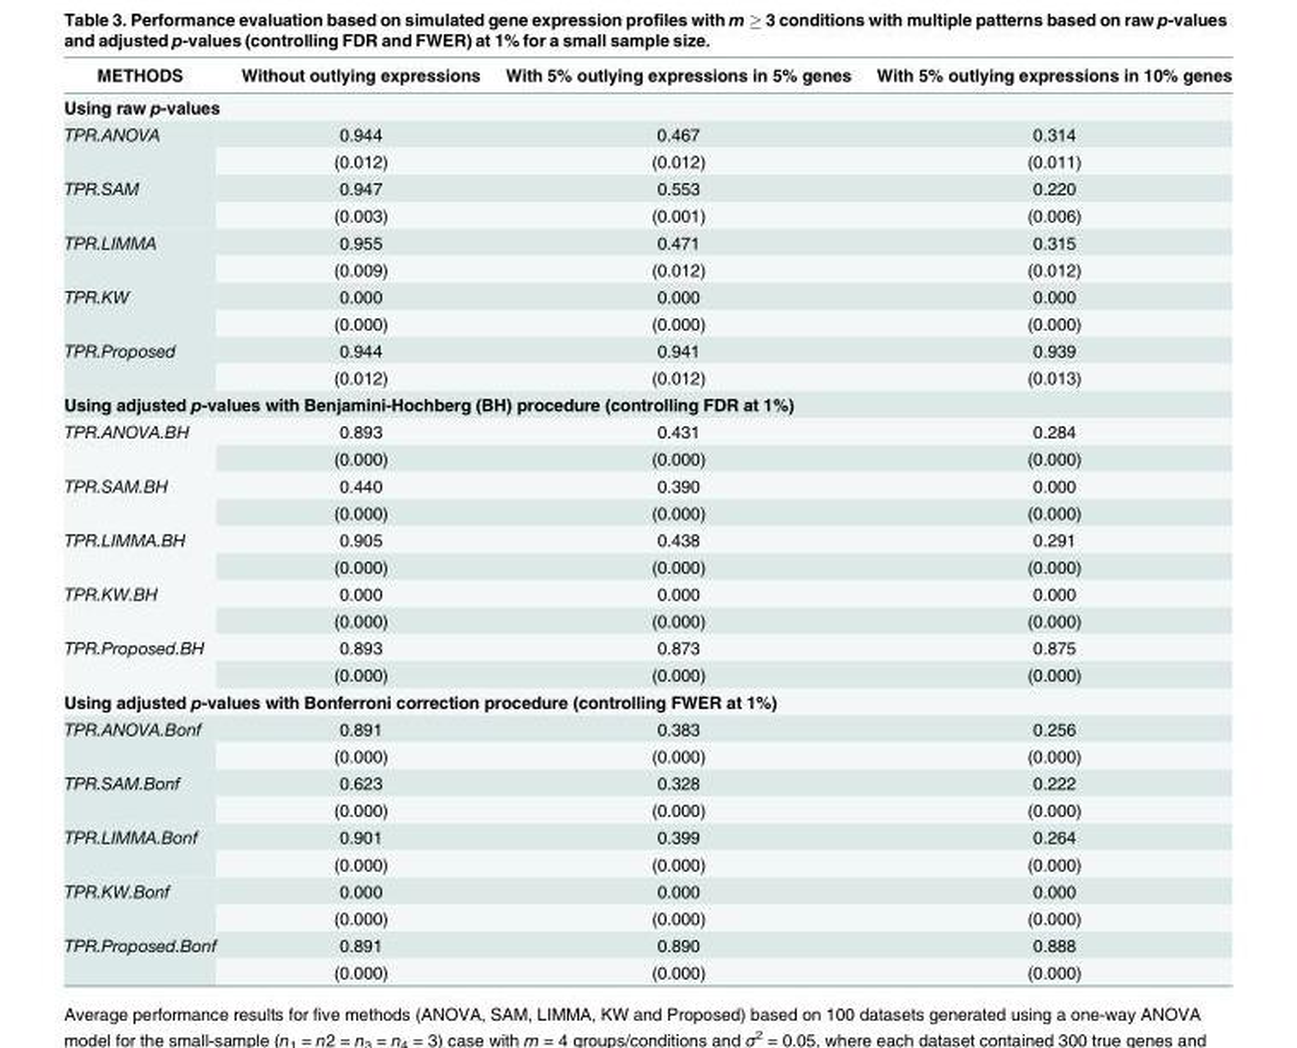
<table><thead><tr><td>METHODS</td><td>Without outlying expressions</td><td>With 5% outlying expressions in 5% genes</td><td>With 5% outlying expressions in 10% genes</td></tr></thead><tbody><tr><td colspan="4">Using raw p-values</td></tr><tr><td rowspan="2">TPR.ANOVA</td><td>0.944</td><td>0.467</td><td>0.314</td></tr><tr><td>(0.012)</td><td>(0.012)</td><td>(0.011)</td></tr><tr><td rowspan="2">TPR.SAM</td><td>0.947</td><td>0.553</td><td>0.220</td></tr><tr><td>(0.003)</td><td>(0.001)</td><td>(0.006)</td></tr><tr><td rowspan="2">TPR.LIMMA</td><td>0.955</td><td>0.471</td><td>0.315</td></tr><tr><td>(0.009)</td><td>(0.012)</td><td>(0.012)</td></tr><tr><td rowspan="2">TPR.KW</td><td>0.000</td><td>0.000</td><td>0.000</td></tr><tr><td>(0.000)</td><td>(0.000)</td><td>(0.000)</td></tr><tr><td rowspan="2">TPR.Proposed</td><td>0.944</td><td>0.941</td><td>0.939</td></tr><tr><td>(0.012)</td><td>(0.012)</td><td>(0.013)</td></tr><tr><td colspan="4">Using adjusted p-values with Benjamini-Hochberg (BH) procedure (controlling FDR at 1%)</td></tr><tr><td rowspan="2">TPR.ANOVA.BH</td><td>0.893</td><td>0.431</td><td>0.284</td></tr><tr><td>(0.000)</td><td>(0.000)</td><td>(0.000)</td></tr><tr><td rowspan="2">TPR.SAM.BH</td><td>0.440</td><td>0.390</td><td>0.000</td></tr><tr><td>(0.000)</td><td>(0.000)</td><td>(0.000)</td></tr><tr><td rowspan="2">TPR.LIMMA.BH</td><td>0.905</td><td>0.438</td><td>0.291</td></tr><tr><td>(0.000)</td><td>(0.000)</td><td>(0.000)</td></tr><tr><td rowspan="2">TPR.KW.BH</td><td>0.000</td><td>0.000</td><td>0.000</td></tr><tr><td>(0.000)</td><td>(0.000)</td><td>(0.000)</td></tr><tr><td rowspan="2">TPR.Proposed.BH</td><td>0.893</td><td>0.873</td><td>0.875</td></tr><tr><td>(0.000)</td><td>(0.000)</td><td>(0.000)</td></tr><tr><td colspan="4">Using adjusted p-values with Bonferroni correction procedure (controlling FWER at 1%)</td></tr><tr><td rowspan="2">TPR.ANOVA.Bonf</td><td>0.891</td><td>0.383</td><td>0.256</td></tr><tr><td>(0.000)</td><td>(0.000)</td><td>(0.000)</td></tr><tr><td rowspan="2">TPR.SAM.Bonf</td><td>0.623</td><td>0.328</td><td>0.222</td></tr><tr><td>(0.000)</td><td>(0.000)</td><td>(0.000)</td></tr><tr><td rowspan="2">TPR.LIMMA.Bonf</td><td>0.901</td><td>0.399</td><td>0.264</td></tr><tr><td>(0.000)</td><td>(0.000)</td><td>(0.000)</td></tr><tr><td rowspan="2">TPR.KW.Bonf</td><td>0.000</td><td>0.000</td><td>0.000</td></tr><tr><td>(0.000)</td><td>(0.000)</td><td>(0.000)</td></tr><tr><td rowspan="2">TPR.Proposed.Bonf</td><td>0.891</td><td>0.890</td><td>0.888</td></tr><tr><td>(0.000)</td><td>(0.000)</td><td>(0.000)</td></tr></tbody></table>